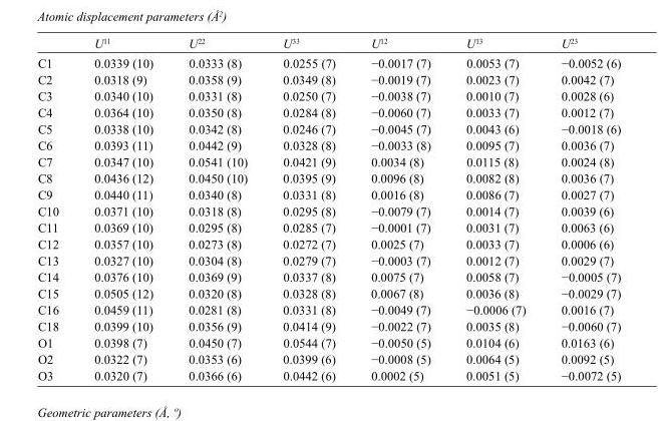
<table><thead><tr><td></td><td>U<sup>11</sup></td><td>U<sup>22</sup></td><td>U<sup>33</sup></td><td>U<sup>12</sup></td><td>U<sup>13</sup></td><td>U<sup>23</sup></td></tr></thead><tbody><tr><td>C1</td><td>0.0339 (10)</td><td>0.0333 (8)</td><td>0.0255 (7)</td><td>−0.0017 (7)</td><td>0.0053 (7)</td><td>−0.0052 (6)</td></tr><tr><td>C2</td><td>0.0318 (9)</td><td>0.0358 (9)</td><td>0.0349 (8)</td><td>−0.0019 (7)</td><td>0.0023 (7)</td><td>0.0042 (7)</td></tr><tr><td>C3</td><td>0.0340 (10)</td><td>0.0331 (8)</td><td>0.0250 (7)</td><td>−0.0038 (7)</td><td>0.0010 (7)</td><td>0.0028 (6)</td></tr><tr><td>C4</td><td>0.0364 (10)</td><td>0.0350 (8)</td><td>0.0284 (8)</td><td>−0.0060 (7)</td><td>0.0033 (7)</td><td>0.0012 (7)</td></tr><tr><td>C5</td><td>0.0338 (10)</td><td>0.0342 (8)</td><td>0.0246 (7)</td><td>−0.0045 (7)</td><td>0.0043 (6)</td><td>−0.0018 (6)</td></tr><tr><td>C6</td><td>0.0393 (11)</td><td>0.0442 (9)</td><td>0.0328 (8)</td><td>−0.0033 (8)</td><td>0.0095 (7)</td><td>0.0036 (7)</td></tr><tr><td>C7</td><td>0.0347 (10)</td><td>0.0541 (10)</td><td>0.0421 (9)</td><td>0.0034 (8)</td><td>0.0115 (8)</td><td>0.0024 (8)</td></tr><tr><td>C8</td><td>0.0436 (12)</td><td>0.0450 (10)</td><td>0.0395 (9)</td><td>0.0096 (8)</td><td>0.0082 (8)</td><td>0.0036 (7)</td></tr><tr><td>C9</td><td>0.0440 (11)</td><td>0.0340 (8)</td><td>0.0331 (8)</td><td>0.0016 (8)</td><td>0.0086 (7)</td><td>0.0027 (7)</td></tr><tr><td>C10</td><td>0.0371 (10)</td><td>0.0318 (8)</td><td>0.0295 (8)</td><td>−0.0079 (7)</td><td>0.0014 (7)</td><td>0.0039 (6)</td></tr><tr><td>C11</td><td>0.0369 (10)</td><td>0.0295 (8)</td><td>0.0285 (7)</td><td>−0.0001 (7)</td><td>0.0031 (7)</td><td>0.0063 (6)</td></tr><tr><td>C12</td><td>0.0357 (10)</td><td>0.0273 (8)</td><td>0.0272 (7)</td><td>0.0025 (7)</td><td>0.0033 (7)</td><td>0.0006 (6)</td></tr><tr><td>C13</td><td>0.0327 (10)</td><td>0.0304 (8)</td><td>0.0279 (7)</td><td>−0.0003 (7)</td><td>0.0012 (7)</td><td>0.0029 (7)</td></tr><tr><td>C14</td><td>0.0376 (10)</td><td>0.0369 (9)</td><td>0.0337 (8)</td><td>0.0075 (7)</td><td>0.0058 (7)</td><td>−0.0005 (7)</td></tr><tr><td>C15</td><td>0.0505 (12)</td><td>0.0320 (8)</td><td>0.0328 (8)</td><td>0.0067 (8)</td><td>0.0036 (8)</td><td>−0.0029 (7)</td></tr><tr><td>C16</td><td>0.0459 (11)</td><td>0.0281 (8)</td><td>0.0331 (8)</td><td>−0.0049 (7)</td><td>−0.0006 (7)</td><td>0.0016 (7)</td></tr><tr><td>C18</td><td>0.0399 (10)</td><td>0.0356 (9)</td><td>0.0414 (9)</td><td>−0.0022 (7)</td><td>0.0035 (8)</td><td>−0.0060 (7)</td></tr><tr><td>O1</td><td>0.0398 (7)</td><td>0.0450 (7)</td><td>0.0544 (7)</td><td>−0.0050 (5)</td><td>0.0104 (6)</td><td>0.0163 (6)</td></tr><tr><td>O2</td><td>0.0322 (7)</td><td>0.0353 (6)</td><td>0.0399 (6)</td><td>−0.0008 (5)</td><td>0.0064 (5)</td><td>0.0092 (5)</td></tr><tr><td>O3</td><td>0.0320 (7)</td><td>0.0366 (6)</td><td>0.0442 (6)</td><td>0.0002 (5)</td><td>0.0051 (5)</td><td>−0.0072 (5)</td></tr></tbody></table>